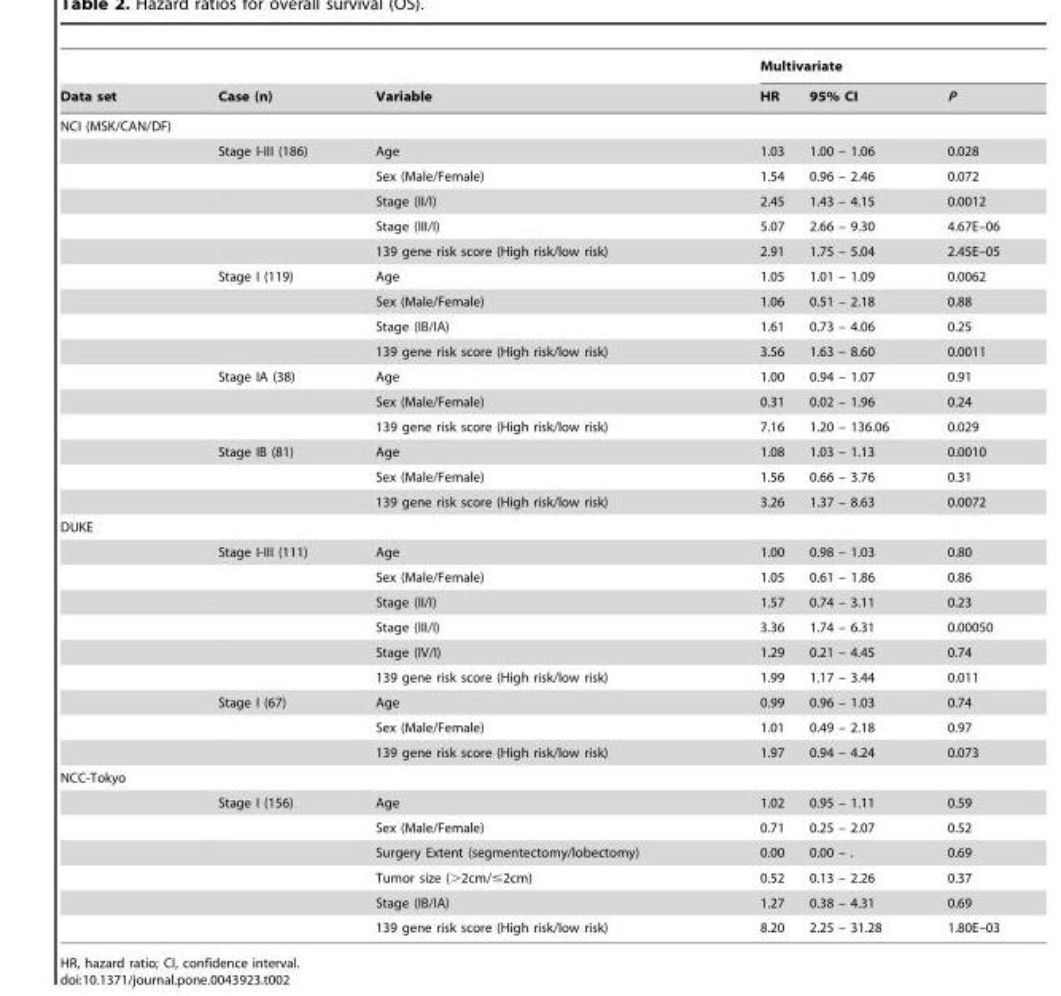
<table><thead><tr><td rowspan="2">Data set</td><td rowspan="2">Case (n)</td><td rowspan="2">Variable</td><td colspan="3">Multivariate</td></tr><tr><td>HR</td><td>95% CI</td><td>P</td></tr></thead><tbody><tr><td colspan="6">NCI (MSK/CAN/DF)</td></tr><tr><td></td><td>Stage I-III (186)</td><td>Age</td><td>1.03</td><td>1.00 – 1.06</td><td>0.028</td></tr><tr><td></td><td></td><td>Sex (Male/Female)</td><td>1.54</td><td>0.96 – 2.46</td><td>0.072</td></tr><tr><td></td><td></td><td>Stage (II/I)</td><td>2.45</td><td>1.43 – 4.15</td><td>0.0012</td></tr><tr><td></td><td></td><td>Stage (III/I)</td><td>5.07</td><td>2.66 – 9.30</td><td>4.67E–06</td></tr><tr><td></td><td></td><td>139 gene risk score (High risk/low risk)</td><td>2.91</td><td>1.75 – 5.04</td><td>2.45E–05</td></tr><tr><td></td><td>Stage I (119)</td><td>Age</td><td>1.05</td><td>1.01 – 1.09</td><td>0.0062</td></tr><tr><td></td><td></td><td>Sex (Male/Female)</td><td>1.06</td><td>0.51 – 2.18</td><td>0.88</td></tr><tr><td></td><td></td><td>Stage (IB/IA)</td><td>1.61</td><td>0.73 – 4.06</td><td>0.25</td></tr><tr><td></td><td></td><td>139 gene risk score (High risk/low risk)</td><td>3.56</td><td>1.63 – 8.60</td><td>0.0011</td></tr><tr><td></td><td>Stage IA (38)</td><td>Age</td><td>1.00</td><td>0.94 – 1.07</td><td>0.91</td></tr><tr><td></td><td></td><td>Sex (Male/Female)</td><td>0.31</td><td>0.02 – 1.96</td><td>0.24</td></tr><tr><td></td><td></td><td>139 gene risk score (High risk/low risk)</td><td>7.16</td><td>1.20 – 136.06</td><td>0.029</td></tr><tr><td></td><td>Stage IB (81)</td><td>Age</td><td>1.08</td><td>1.03 – 1.13</td><td>0.0010</td></tr><tr><td></td><td></td><td>Sex (Male/Female)</td><td>1.56</td><td>0.66 – 3.76</td><td>0.31</td></tr><tr><td></td><td></td><td>139 gene risk score (High risk/low risk)</td><td>3.26</td><td>1.37 – 8.63</td><td>0.0072</td></tr><tr><td colspan="6">DUKE</td></tr><tr><td></td><td>Stage I-III (111)</td><td>Age</td><td>1.00</td><td>0.98 – 1.03</td><td>0.80</td></tr><tr><td></td><td></td><td>Sex (Male/Female)</td><td>1.05</td><td>0.61 – 1.86</td><td>0.86</td></tr><tr><td></td><td></td><td>Stage (II/I)</td><td>1.57</td><td>0.74 – 3.11</td><td>0.23</td></tr><tr><td></td><td></td><td>Stage (III/I)</td><td>3.36</td><td>1.74 – 6.31</td><td>0.00050</td></tr><tr><td></td><td></td><td>Stage (IV/I)</td><td>1.29</td><td>0.21 – 4.45</td><td>0.74</td></tr><tr><td></td><td></td><td>139 gene risk score (High risk/low risk)</td><td>1.99</td><td>1.17 – 3.44</td><td>0.011</td></tr><tr><td></td><td>Stage I (67)</td><td>Age</td><td>0.99</td><td>0.96 – 1.03</td><td>0.74</td></tr><tr><td></td><td></td><td>Sex (Male/Female)</td><td>1.01</td><td>0.49 – 2.18</td><td>0.97</td></tr><tr><td></td><td></td><td>139 gene risk score (High risk/low risk)</td><td>1.97</td><td>0.94 – 4.24</td><td>0.073</td></tr><tr><td colspan="6">NCC-Tokyo</td></tr><tr><td></td><td>Stage I (156)</td><td>Age</td><td>1.02</td><td>0.95 – 1.11</td><td>0.59</td></tr><tr><td></td><td></td><td>Sex (Male/Female)</td><td>0.71</td><td>0.25 – 2.07</td><td>0.52</td></tr><tr><td></td><td></td><td>Surgery Extent (segmentectomy/lobectomy)</td><td>0.00</td><td>0.00 – .</td><td>0.69</td></tr><tr><td></td><td></td><td>Tumor size (&gt;2cm/≤2cm)</td><td>0.52</td><td>0.13 – 2.26</td><td>0.37</td></tr><tr><td></td><td></td><td>Stage (IB/IA)</td><td>1.27</td><td>0.38 – 4.31</td><td>0.69</td></tr><tr><td></td><td></td><td>139 gene risk score (High risk/low risk)</td><td>8.20</td><td>2.25 – 31.28</td><td>1.80E–03</td></tr></tbody></table>